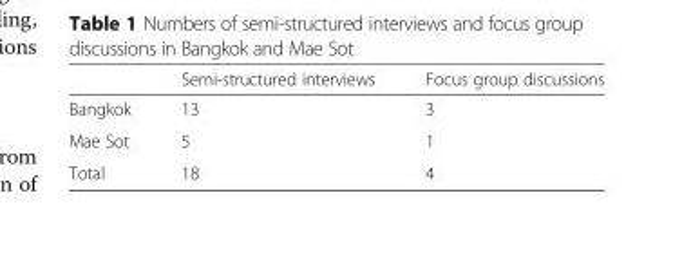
<table><thead><tr><td></td><td>Semi-structured interviews</td><td>Focus group discussions</td></tr></thead><tbody><tr><td>Bangkok</td><td>13</td><td>3</td></tr><tr><td>Mae Sot</td><td>5</td><td>1</td></tr><tr><td>Total</td><td>18</td><td>4</td></tr></tbody></table>